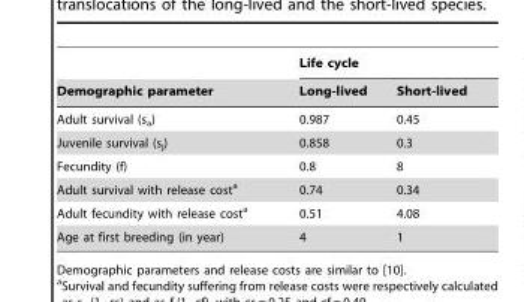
<table><thead><tr><td rowspan="2">Demographic parameter</td><td colspan="2">Life cycle</td></tr><tr><td>Long-lived</td><td>Short-lived</td></tr></thead><tbody><tr><td>Adult survival (s<sub>a</sub>)</td><td>0.987</td><td>0.45</td></tr><tr><td>Juvenile survival (s<sub>j</sub>)</td><td>0.858</td><td>0.3</td></tr><tr><td>Fecundity (f)</td><td>0.8</td><td>8</td></tr><tr><td>Adult survival with release cost<sup>a</sup></td><td>0.74</td><td>0.34</td></tr><tr><td>Adult fecundity with release cost<sup>a</sup></td><td>0.51</td><td>4.08</td></tr><tr><td>Age at first breeding (in year)</td><td>4</td><td>1</td></tr></tbody></table>